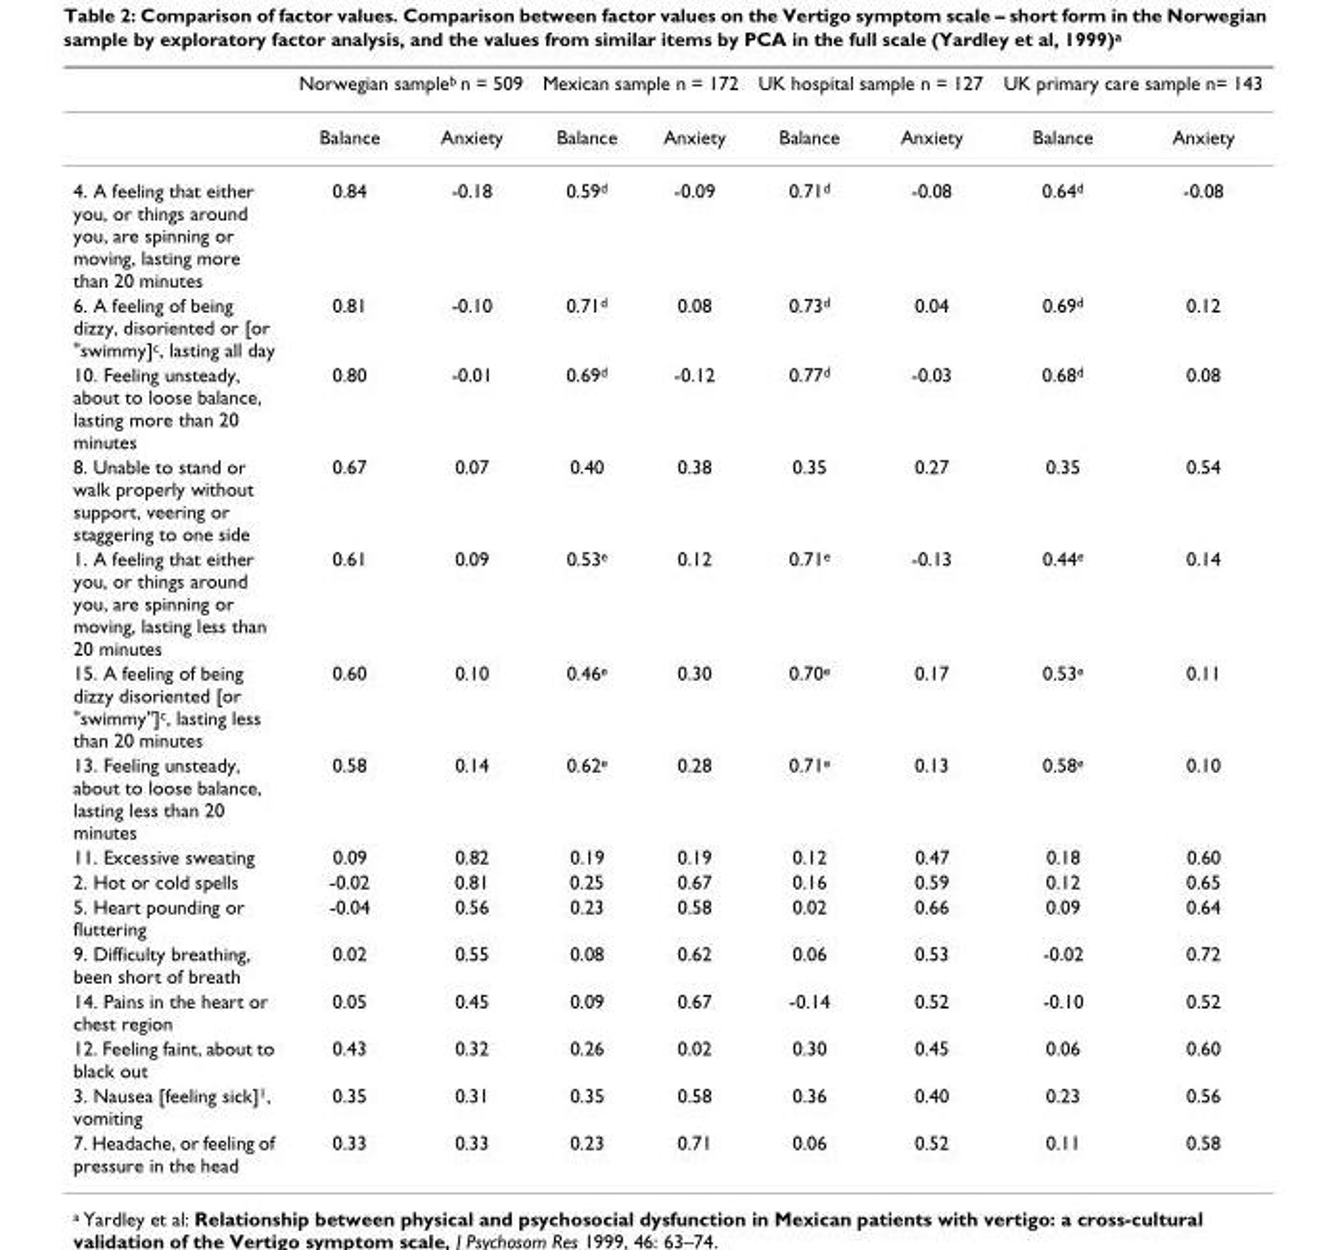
<table><thead><tr><td rowspan="2"></td><td colspan="2">Norwegian sample<sup>b</sup> n = 509</td><td colspan="2">Mexican sample n = 172</td><td colspan="2">UK hospital sample n = 127</td><td colspan="2">UK primary care sample n= 143</td></tr><tr><td>Balance</td><td>Anxiety</td><td>Balance</td><td>Anxiety</td><td>Balance</td><td>Anxiety</td><td>Balance</td><td>Anxiety</td></tr></thead><tbody><tr><td>4. A feeling that either you, or things around you, are spinning or moving, lasting more than 20 minutes</td><td>0.84</td><td>-0.18</td><td>0.59<sup>d</sup></td><td>-0.09</td><td>0.71<sup>d</sup></td><td>-0.08</td><td>0.64<sup>d</sup></td><td>-0.08</td></tr><tr><td>6. A feeling of being dizzy, disoriented or [or &quot;swimmy]<sup>c</sup>, lasting all day</td><td>0.81</td><td>-0.10</td><td>0.71<sup>d</sup></td><td>0.08</td><td>0.73<sup>d</sup></td><td>0.04</td><td>0.69<sup>d</sup></td><td>0.12</td></tr><tr><td>10. Feeling unsteady, about to loose balance, lasting more than 20 minutes</td><td>0.80</td><td>-0.01</td><td>0.69<sup>d</sup></td><td>-0.12</td><td>0.77<sup>d</sup></td><td>-0.03</td><td>0.68<sup>d</sup></td><td>0.08</td></tr><tr><td>8. Unable to stand or walk properly without support, veering or staggering to one side</td><td>0.67</td><td>0.07</td><td>0.40</td><td>0.38</td><td>0.35</td><td>0.27</td><td>0.35</td><td>0.54</td></tr><tr><td>1. A feeling that either you, or things around you, are spinning or moving, lasting less than 20 minutes</td><td>0.61</td><td>0.09</td><td>0.53<sup>e</sup></td><td>0.12</td><td>0.71<sup>e</sup></td><td>-0.13</td><td>0.44<sup>e</sup></td><td>0.14</td></tr><tr><td>15. A feeling of being dizzy disoriented [or &quot;swimmy&quot;]<sup>c</sup>, lasting less than 20 minutes</td><td>0.60</td><td>0.10</td><td>0.46<sup>e</sup></td><td>0.30</td><td>0.70<sup>e</sup></td><td>0.17</td><td>0.53<sup>e</sup></td><td>0.11</td></tr><tr><td>13. Feeling unsteady, about to loose balance, lasting less than 20 minutes</td><td>0.58</td><td>0.14</td><td>0.62<sup>e</sup></td><td>0.28</td><td>0.71<sup>e</sup></td><td>0.13</td><td>0.58<sup>e</sup></td><td>0.10</td></tr><tr><td>11. Excessive sweating</td><td>0.09</td><td>0.82</td><td>0.19</td><td>0.19</td><td>0.12</td><td>0.47</td><td>0.18</td><td>0.60</td></tr><tr><td>2. Hot or cold spells</td><td>-0.02</td><td>0.81</td><td>0.25</td><td>0.67</td><td>0.16</td><td>0.59</td><td>0.12</td><td>0.65</td></tr><tr><td>5. Heart pounding or fluttering</td><td>-0.04</td><td>0.56</td><td>0.23</td><td>0.58</td><td>0.02</td><td>0.66</td><td>0.09</td><td>0.64</td></tr><tr><td>9. Difficulty breathing, been short of breath</td><td>0.02</td><td>0.55</td><td>0.08</td><td>0.62</td><td>0.06</td><td>0.53</td><td>-0.02</td><td>0.72</td></tr><tr><td>14. Pains in the heart or chest region</td><td>0.05</td><td>0.45</td><td>0.09</td><td>0.67</td><td>-0.14</td><td>0.52</td><td>-0.10</td><td>0.52</td></tr><tr><td>12. Feeling faint, about to black out</td><td>0.43</td><td>0.32</td><td>0.26</td><td>0.02</td><td>0.30</td><td>0.45</td><td>0.06</td><td>0.60</td></tr><tr><td>3. Nausea [feeling sick]<sup>1</sup>, vomiting</td><td>0.35</td><td>0.31</td><td>0.35</td><td>0.58</td><td>0.36</td><td>0.40</td><td>0.23</td><td>0.56</td></tr><tr><td>7. Headache, or feeling of pressure in the head</td><td>0.33</td><td>0.33</td><td>0.23</td><td>0.71</td><td>0.06</td><td>0.52</td><td>0.11</td><td>0.58</td></tr></tbody></table>